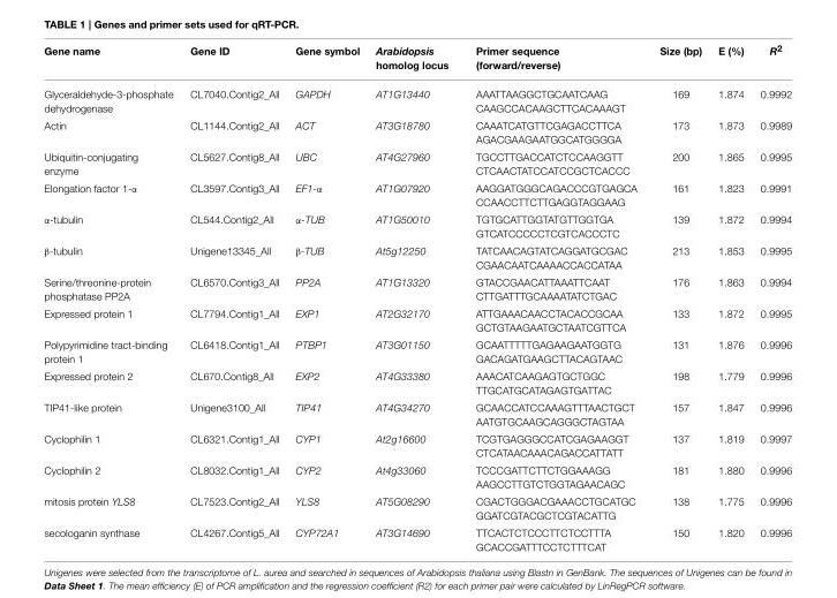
<table><thead><tr><td>Gene name</td><td>Gene ID</td><td>Gene symbol</td><td>Arabidopsis homolog locus</td><td>Primer sequence (forward/reverse)</td><td>Size (bp)</td><td>E (%)</td><td>R<sup>2</sup></td></tr></thead><tbody><tr><td>Glyceraldehyde-3-phosphate dehydrogenase</td><td>CL7040.Contig2_All</td><td>GAPDH</td><td>AT1G13440</td><td>AAATTAAGGCTGCAATCAAG CAAGCCACAAGCTTCACAAAGT</td><td>169</td><td>1.874</td><td>0.9992</td></tr><tr><td>Actin</td><td>CL1144.Contig2_All</td><td>ACT</td><td>AT3G18780</td><td>CAAATCATGTTCGAGACCTTCA AGACGAAGAATGGCATGGGGA</td><td>173</td><td>1.873</td><td>0.9989</td></tr><tr><td>Ubiquitin-conjugating enzyme</td><td>CL5627.Contig8_All</td><td>UBC</td><td>AT4G27960</td><td>TGCCTTGACCATCTCCAAGGTT CTCAACTATCCATCCGCTCACCC</td><td>200</td><td>1.865</td><td>0.9995</td></tr><tr><td>Elongation factor 1-α</td><td>CL3597.Contig3_All</td><td>EF1-α</td><td>AT1G07920</td><td>AAGGATGGGCAGACCCGTGAGCA CCAACCTTCTTGAGGTAGGAAG</td><td>161</td><td>1.823</td><td>0.9991</td></tr><tr><td>α-tubulin</td><td>CL544.Contig2_All</td><td>α-TUB</td><td>AT1G50010</td><td>TGTGCATTGGTATGTTGGTGA GTCATCCCCCTCGTCACCCTC</td><td>139</td><td>1.872</td><td>0.9994</td></tr><tr><td>β-tubulin</td><td>Unigene13345_All</td><td>β-TUB</td><td>At5g12250</td><td>TATCAACAGTATCAGGATGCGAC CGAACAATCAAAACCACCATAA</td><td>213</td><td>1.853</td><td>0.9995</td></tr><tr><td>Serine/threonine-protein phosphatase PP2A</td><td>CL6570.Contig3_All</td><td>PP2A</td><td>AT1G13320</td><td>GTACCGAACATTAAATTCAAT CTTGATTTGCAAAATATCTGAC</td><td>176</td><td>1.863</td><td>0.9994</td></tr><tr><td>Expressed protein 1</td><td>CL7794.Contig1_All</td><td>EXP1</td><td>AT2G32170</td><td>ATTGAAACAACCTACACCGCAA GCTGTAAGAATGCTAATCGTTCA</td><td>133</td><td>1.872</td><td>0.9995</td></tr><tr><td>Polypyrimidine tract-binding protein 1</td><td>CL6418.Contig1_All</td><td>PTBP1</td><td>AT3G01150</td><td>GCAATTTTTGAGAAGAATGGTG GACAGATGAAGCTTACAGTAAC</td><td>131</td><td>1.876</td><td>0.9996</td></tr><tr><td>Expressed protein 2</td><td>CL670.Contig8_All</td><td>EXP2</td><td>AT4G33380</td><td>AAACATCAAGAGTGCTGGC TTGCATGCATAGAGTGATTAC</td><td>198</td><td>1.779</td><td>0.9996</td></tr><tr><td>TIP41-like protein</td><td>Unigene3100_All</td><td>TIP41</td><td>AT4G34270</td><td>GCAACCATCCAAAGTTTAACTGCT AATGTGCAAGCAGGGCTAGTAA</td><td>157</td><td>1.847</td><td>0.9996</td></tr><tr><td>Cyclophilin 1</td><td>CL6321.Contig1_All</td><td>CYP1</td><td>At2g16600</td><td>TCGTGAGGGCCATCGAGAAGGT CTCATAACAAACAGACCATTATT</td><td>137</td><td>1.819</td><td>0.9997</td></tr><tr><td>Cyclophilin 2</td><td>CL8032.Contig1_All</td><td>CYP2</td><td>At4g33060</td><td>TCCCGATTCTTCTGGAAAGG AAGCCTTGTCTGGTAGAACAGC</td><td>181</td><td>1.880</td><td>0.9996</td></tr><tr><td>mitosis protein YLS8</td><td>CL7523.Contig2_All</td><td>YLS8</td><td>AT5G08290</td><td>CGACTGGGACGAAACCTGCATGC GGATCGTACGCTCGTACATTG</td><td>138</td><td>1.775</td><td>0.9996</td></tr><tr><td>secologanin synthase</td><td>CL4267.Contig5_All</td><td>CYP72A1</td><td>AT3G14690</td><td>TTCACTCTCCCTTCTCCTTTA GCACCGATTTCCTCTTTCAT</td><td>150</td><td>1.820</td><td>0.9996</td></tr></tbody></table>